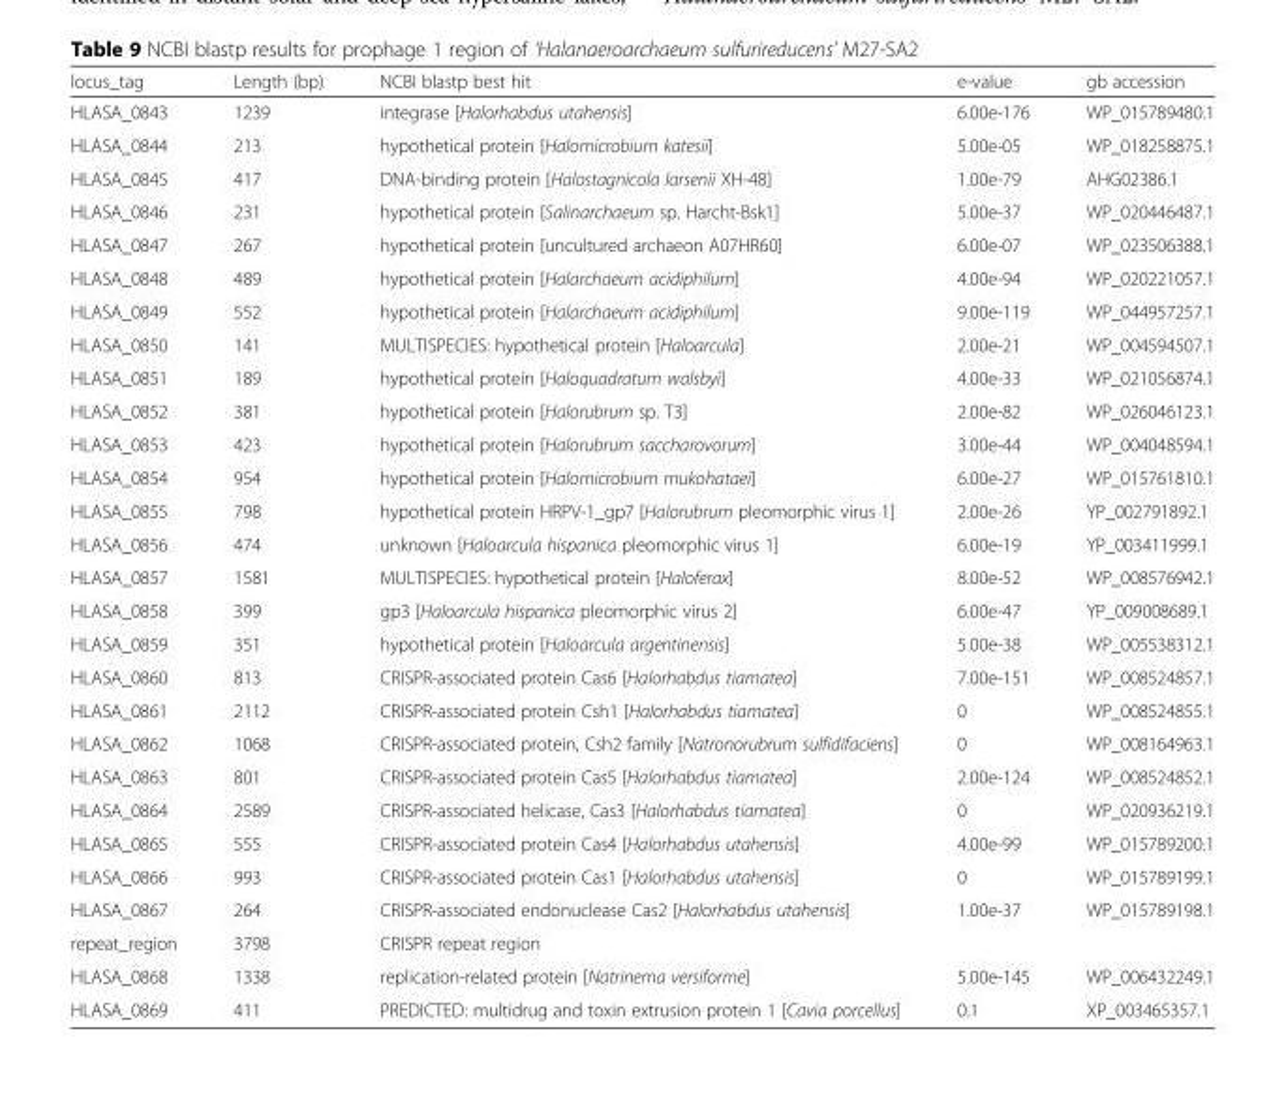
<table><thead><tr><td>locus_tag</td><td>Length (bp)</td><td>NCBI blastp best hit</td><td>e-value</td><td>gb accession</td></tr></thead><tbody><tr><td>HLASA_0843</td><td>1239</td><td>integrase [Halorhabdus utahensis]</td><td>6.00e-176</td><td>WP_015789480.1</td></tr><tr><td>HLASA_0844</td><td>213</td><td>hypothetical protein [Halomicrobium katesii]</td><td>5.00e-05</td><td>WP_018258875.1</td></tr><tr><td>HLASA_0845</td><td>417</td><td>DNA-binding protein [Halostagnicola larsenii XH-48]</td><td>1.00e-79</td><td>AHG02386.1</td></tr><tr><td>HLASA_0846</td><td>231</td><td>hypothetical protein [Salinarchaeum sp. Harcht-Bsk1]</td><td>5.00e-37</td><td>WP_020446487.1</td></tr><tr><td>HLASA_0847</td><td>267</td><td>hypothetical protein [uncultured archaeon A07HR60]</td><td>6.00e-07</td><td>WP_023506388.1</td></tr><tr><td>HLASA_0848</td><td>489</td><td>hypothetical protein [Halarchaeum acidiphilum]</td><td>4.00e-94</td><td>WP_020221057.1</td></tr><tr><td>HLASA_0849</td><td>552</td><td>hypothetical protein [Halarchaeum acidiphilum]</td><td>9.00e-119</td><td>WP_044957257.1</td></tr><tr><td>HLASA_0850</td><td>141</td><td>MULTISPECIES: hypothetical protein [Haloarcula]</td><td>2.00e-21</td><td>WP_004594507.1</td></tr><tr><td>HLASA_0851</td><td>189</td><td>hypothetical protein [Haloquadratum walsbyi]</td><td>4.00e-33</td><td>WP_021056874.1</td></tr><tr><td>HLASA_0852</td><td>381</td><td>hypothetical protein [Halorubrum sp. T3]</td><td>2.00e-82</td><td>WP_026046123.1</td></tr><tr><td>HLASA_0853</td><td>423</td><td>hypothetical protein [Halorubrum saccharovorum]</td><td>3.00e-44</td><td>WP_004048594.1</td></tr><tr><td>HLASA_0854</td><td>954</td><td>hypothetical protein [Halomicrobium mukohataei]</td><td>6.00e-27</td><td>WP_015761810.1</td></tr><tr><td>HLASA_0855</td><td>798</td><td>hypothetical protein HRPV-1_gp7 [Halorubrum pleomorphic virus 1]</td><td>2.00e-26</td><td>YP_002791892.1</td></tr><tr><td>HLASA_0856</td><td>474</td><td>unknown [Haloarcula hispanica pleomorphic virus 1]</td><td>6.00e-19</td><td>YP_003411999.1</td></tr><tr><td>HLASA_0857</td><td>1581</td><td>MULTISPECIES: hypothetical protein [Haloferax]</td><td>8.00e-52</td><td>WP_008576942.1</td></tr><tr><td>HLASA_0858</td><td>399</td><td>gp3 [Haloarcula hispanica pleomorphic virus 2]</td><td>6.00e-47</td><td>YP_009008689.1</td></tr><tr><td>HLASA_0859</td><td>351</td><td>hypothetical protein [Haloarcula argentinensis]</td><td>5.00e-38</td><td>WP_005538312.1</td></tr><tr><td>HLASA_0860</td><td>813</td><td>CRISPR-associated protein Cas6 [Halorhabdus tiamatea]</td><td>7.00e-151</td><td>WP_008524857.1</td></tr><tr><td>HLASA_0861</td><td>2112</td><td>CRISPR-associated protein Csh1 [Halorhabdus tiamatea]</td><td>0</td><td>WP_008524855.1</td></tr><tr><td>HLASA_0862</td><td>1068</td><td>CRISPR-associated protein, Csh2 family [Natronorubrum sulfidifaciens]</td><td>0</td><td>WP_008164963.1</td></tr><tr><td>HLASA_0863</td><td>801</td><td>CRISPR-associated protein Cas5 [Halorhabdus tiamatea]</td><td>2.00e-124</td><td>WP_008524852.1</td></tr><tr><td>HLASA_0864</td><td>2589</td><td>CRISPR-associated helicase, Cas3 [Halorhabdus tiamatea]</td><td>0</td><td>WP_020936219.1</td></tr><tr><td>HLASA_0865</td><td>555</td><td>CRISPR-associated protein Cas4 [Halorhabdus utahensis]</td><td>4.00e-99</td><td>WP_015789200.1</td></tr><tr><td>HLASA_0866</td><td>993</td><td>CRISPR-associated protein Cas1 [Halorhabdus utahensis]</td><td>0</td><td>WP_015789199.1</td></tr><tr><td>HLASA_0867</td><td>264</td><td>CRISPR-associated endonuclease Cas2 [Halorhabdus utahensis]</td><td>1.00e-37</td><td>WP_015789198.1</td></tr><tr><td>repeat_region</td><td>3798</td><td>CRISPR repeat region</td><td></td><td></td></tr><tr><td>HLASA_0868</td><td>1338</td><td>replication-related protein [Natrinema versiforme]</td><td>5.00e-145</td><td>WP_006432249.1</td></tr><tr><td>HLASA_0869</td><td>411</td><td>PREDICTED: multidrug and toxin extrusion protein 1 [Cavia porcellus]</td><td>0.1</td><td>XP_003465357.1</td></tr></tbody></table>